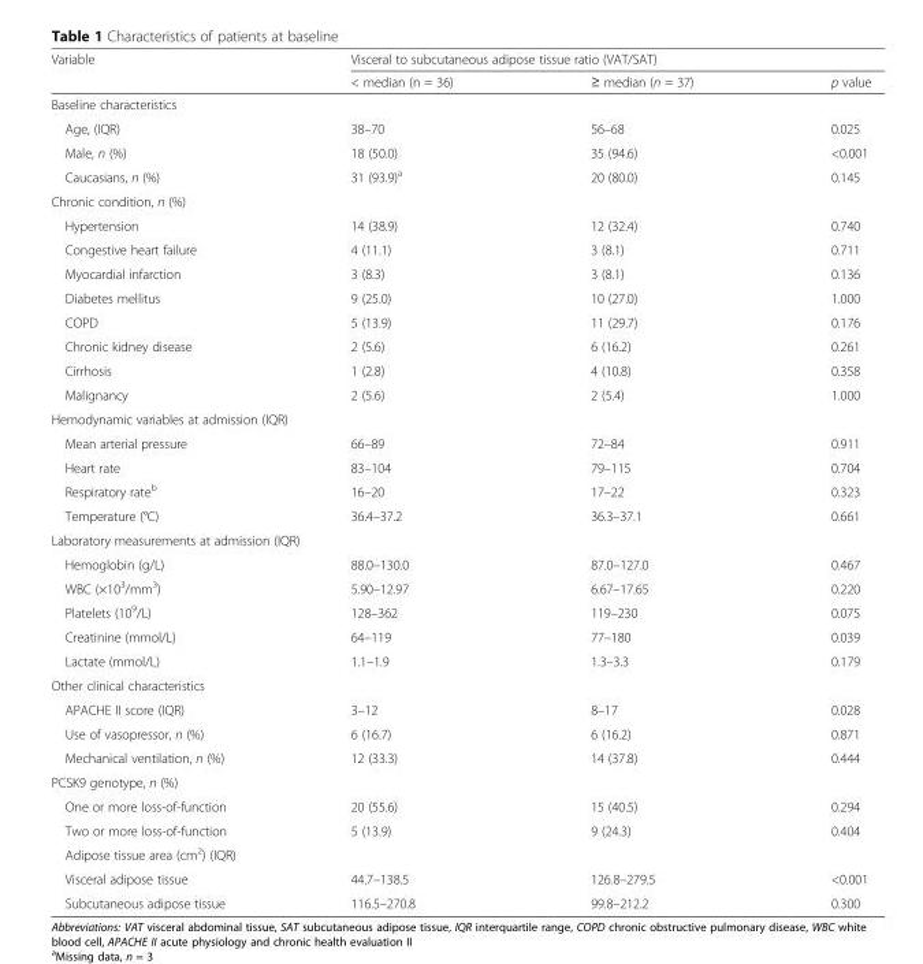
<table><thead><tr><td rowspan="2">Variable</td><td colspan="3">Visceral to subcutaneous adipose tissue ratio (VAT/SAT)</td></tr><tr><td>&lt; median (n = 36)</td><td>≥ median (n = 37)</td><td>p value</td></tr></thead><tbody><tr><td colspan="4">Baseline characteristics</td></tr><tr><td>Age, (IQR)</td><td>38–70</td><td>56–68</td><td>0.025</td></tr><tr><td>Male, n (%)</td><td>18 (50.0)</td><td>35 (94.6)</td><td>&lt;0.001</td></tr><tr><td>Caucasians, n (%)</td><td>31 (93.9)<sup>a</sup></td><td>20 (80.0)</td><td>0.145</td></tr><tr><td colspan="4">Chronic condition, n (%)</td></tr><tr><td>Hypertension</td><td>14 (38.9)</td><td>12 (32.4)</td><td>0.740</td></tr><tr><td>Congestive heart failure</td><td>4 (11.1)</td><td>3 (8.1)</td><td>0.711</td></tr><tr><td>Myocardial infarction</td><td>3 (8.3)</td><td>3 (8.1)</td><td>0.136</td></tr><tr><td>Diabetes mellitus</td><td>9 (25.0)</td><td>10 (27.0)</td><td>1.000</td></tr><tr><td>COPD</td><td>5 (13.9)</td><td>11 (29.7)</td><td>0.176</td></tr><tr><td>Chronic kidney disease</td><td>2 (5.6)</td><td>6 (16.2)</td><td>0.261</td></tr><tr><td>Cirrhosis</td><td>1 (2.8)</td><td>4 (10.8)</td><td>0.358</td></tr><tr><td>Malignancy</td><td>2 (5.6)</td><td>2 (5.4)</td><td>1.000</td></tr><tr><td colspan="4">Hemodynamic variables at admission (IQR)</td></tr><tr><td>Mean arterial pressure</td><td>66–89</td><td>72–84</td><td>0.911</td></tr><tr><td>Heart rate</td><td>83–104</td><td>79–115</td><td>0.704</td></tr><tr><td>Respiratory rate<sup>b</sup></td><td>16–20</td><td>17–22</td><td>0.323</td></tr><tr><td>Temperature (°C)</td><td>36.4–37.2</td><td>36.3–37.1</td><td>0.661</td></tr><tr><td colspan="4">Laboratory measurements at admission (IQR)</td></tr><tr><td>Hemoglobin (g/L)</td><td>88.0–130.0</td><td>87.0–127.0</td><td>0.467</td></tr><tr><td>WBC (×10<sup>3</sup>/mm<sup>3</sup>)</td><td>5.90–12.97</td><td>6.67–17.65</td><td>0.220</td></tr><tr><td>Platelets (10<sup>9</sup>/L)</td><td>128–362</td><td>119–230</td><td>0.075</td></tr><tr><td>Creatinine (mmol/L)</td><td>64–119</td><td>77–180</td><td>0.039</td></tr><tr><td>Lactate (mmol/L)</td><td>1.1–1.9</td><td>1.3–3.3</td><td>0.179</td></tr><tr><td colspan="4">Other clinical characteristics</td></tr><tr><td>APACHE II score (IQR)</td><td>3–12</td><td>8–17</td><td>0.028</td></tr><tr><td>Use of vasopressor, n (%)</td><td>6 (16.7)</td><td>6 (16.2)</td><td>0.871</td></tr><tr><td>Mechanical ventilation, n (%)</td><td>12 (33.3)</td><td>14 (37.8)</td><td>0.444</td></tr><tr><td colspan="4">PCSK9 genotype, n (%)</td></tr><tr><td>One or more loss-of-function</td><td>20 (55.6)</td><td>15 (40.5)</td><td>0.294</td></tr><tr><td>Two or more loss-of-function</td><td>5 (13.9)</td><td>9 (24.3)</td><td>0.404</td></tr><tr><td colspan="4">Adipose tissue area (cm<sup>2</sup>) (IQR)</td></tr><tr><td>Visceral adipose tissue</td><td>44.7–138.5</td><td>126.8–279.5</td><td>&lt;0.001</td></tr><tr><td>Subcutaneous adipose tissue</td><td>116.5–270.8</td><td>99.8–212.2</td><td>0.300</td></tr></tbody></table>